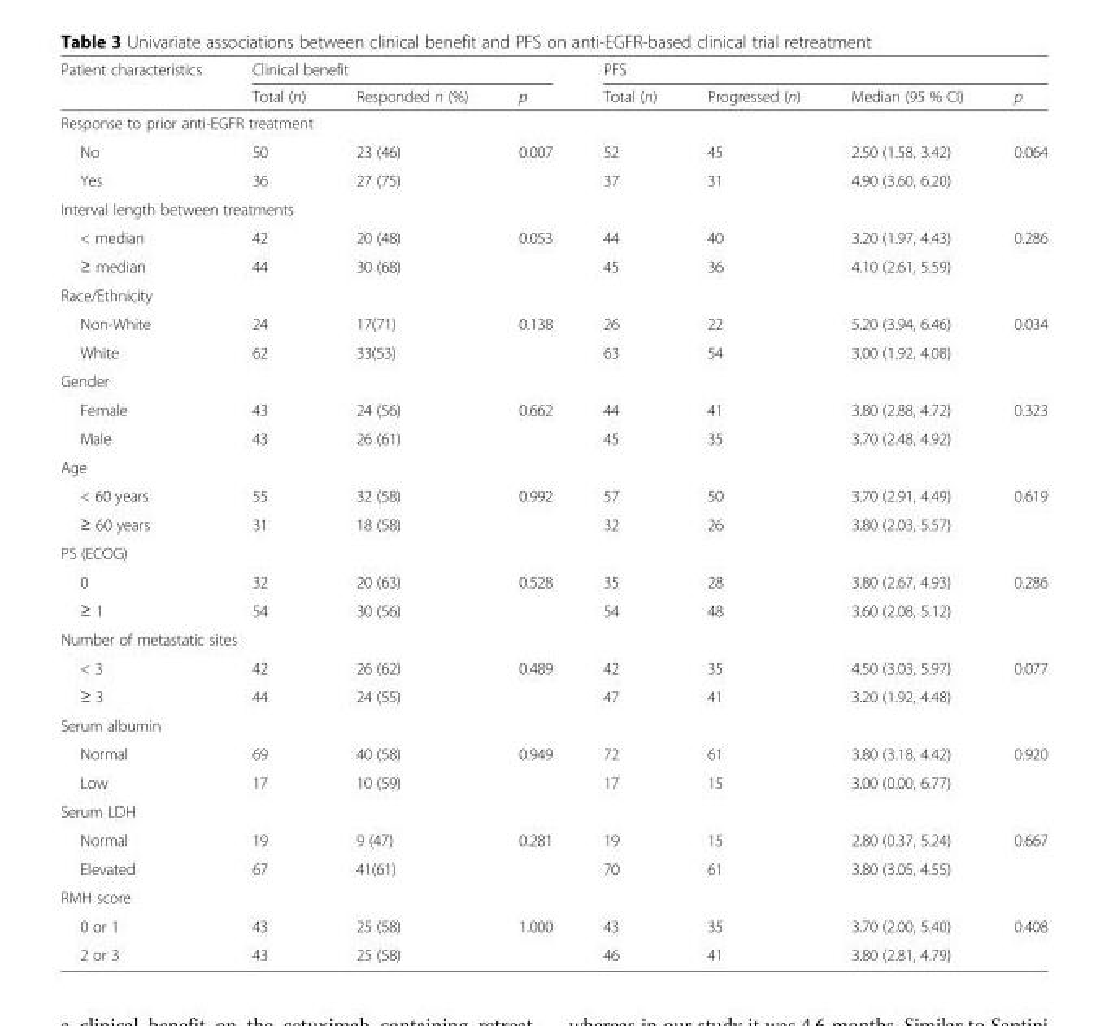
<table><thead><tr><td rowspan="2">Patient characteristics</td><td colspan="3">Clinical benefit</td><td colspan="4">PFS</td></tr><tr><td>Total (n)</td><td>Responded n (%)</td><td>p</td><td>Total (n)</td><td>Progressed (n)</td><td>Median (95 % CI)</td><td>p</td></tr></thead><tbody><tr><td colspan="8">Response to prior anti-EGFR treatment</td></tr><tr><td>No</td><td>50</td><td>23 (46)</td><td>0.007</td><td>52</td><td>45</td><td>2.50 (1.58, 3.42)</td><td>0.064</td></tr><tr><td>Yes</td><td>36</td><td>27 (75)</td><td></td><td>37</td><td>31</td><td>4.90 (3.60, 6.20)</td><td></td></tr><tr><td colspan="8">Interval length between treatments</td></tr><tr><td>&lt; median</td><td>42</td><td>20 (48)</td><td>0.053</td><td>44</td><td>40</td><td>3.20 (1.97, 4.43)</td><td>0.286</td></tr><tr><td>≥ median</td><td>44</td><td>30 (68)</td><td></td><td>45</td><td>36</td><td>4.10 (2.61, 5.59)</td><td></td></tr><tr><td colspan="8">Race/Ethnicity</td></tr><tr><td>Non-White</td><td>24</td><td>17(71)</td><td>0.138</td><td>26</td><td>22</td><td>5.20 (3.94, 6.46)</td><td>0.034</td></tr><tr><td>White</td><td>62</td><td>33(53)</td><td></td><td>63</td><td>54</td><td>3.00 (1.92, 4.08)</td><td></td></tr><tr><td colspan="8">Gender</td></tr><tr><td>Female</td><td>43</td><td>24 (56)</td><td>0.662</td><td>44</td><td>41</td><td>3.80 (2.88, 4.72)</td><td>0.323</td></tr><tr><td>Male</td><td>43</td><td>26 (61)</td><td></td><td>45</td><td>35</td><td>3.70 (2.48, 4.92)</td><td></td></tr><tr><td colspan="8">Age</td></tr><tr><td>&lt; 60 years</td><td>55</td><td>32 (58)</td><td>0.992</td><td>57</td><td>50</td><td>3.70 (2.91, 4.49)</td><td>0.619</td></tr><tr><td>≥ 60 years</td><td>31</td><td>18 (58)</td><td></td><td>32</td><td>26</td><td>3.80 (2.03, 5.57)</td><td></td></tr><tr><td colspan="8">PS (ECOG)</td></tr><tr><td>0</td><td>32</td><td>20 (63)</td><td>0.528</td><td>35</td><td>28</td><td>3.80 (2.67, 4.93)</td><td>0.286</td></tr><tr><td>≥ 1</td><td>54</td><td>30 (56)</td><td></td><td>54</td><td>48</td><td>3.60 (2.08, 5.12)</td><td></td></tr><tr><td colspan="8">Number of metastatic sites</td></tr><tr><td>&lt; 3</td><td>42</td><td>26 (62)</td><td>0.489</td><td>42</td><td>35</td><td>4.50 (3.03, 5.97)</td><td>0.077</td></tr><tr><td>≥ 3</td><td>44</td><td>24 (55)</td><td></td><td>47</td><td>41</td><td>3.20 (1.92, 4.48)</td><td></td></tr><tr><td colspan="8">Serum albumin</td></tr><tr><td>Normal</td><td>69</td><td>40 (58)</td><td>0.949</td><td>72</td><td>61</td><td>3.80 (3.18, 4.42)</td><td>0.920</td></tr><tr><td>Low</td><td>17</td><td>10 (59)</td><td></td><td>17</td><td>15</td><td>3.00 (0.00, 6.77)</td><td></td></tr><tr><td colspan="8">Serum LDH</td></tr><tr><td>Normal</td><td>19</td><td>9 (47)</td><td>0.281</td><td>19</td><td>15</td><td>2.80 (0.37, 5.24)</td><td>0.667</td></tr><tr><td>Elevated</td><td>67</td><td>41(61)</td><td></td><td>70</td><td>61</td><td>3.80 (3.05, 4.55)</td><td></td></tr><tr><td colspan="8">RMH score</td></tr><tr><td>0 or 1</td><td>43</td><td>25 (58)</td><td>1.000</td><td>43</td><td>35</td><td>3.70 (2.00, 5.40)</td><td>0.408</td></tr><tr><td>2 or 3</td><td>43</td><td>25 (58)</td><td></td><td>46</td><td>41</td><td>3.80 (2.81, 4.79)</td><td></td></tr></tbody></table>